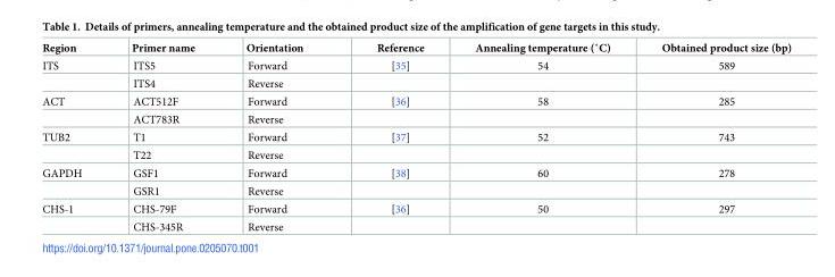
<table><thead><tr><td>Region</td><td>Primer name</td><td>Orientation</td><td>Reference</td><td>Annealing temperature (˚C)</td><td>Obtained product size (bp)</td></tr></thead><tbody><tr><td rowspan="2">ITS</td><td>ITS5</td><td>Forward</td><td>[35]</td><td>54</td><td>589</td></tr><tr><td>ITS4</td><td>Reverse</td><td></td><td></td><td></td></tr><tr><td rowspan="2">ACT</td><td>ACT512F</td><td>Forward</td><td>[36]</td><td>58</td><td>285</td></tr><tr><td>ACT783R</td><td>Reverse</td><td></td><td></td><td></td></tr><tr><td rowspan="2">TUB2</td><td>T1</td><td>Forward</td><td>[37]</td><td>52</td><td>743</td></tr><tr><td>T22</td><td>Reverse</td><td></td><td></td><td></td></tr><tr><td rowspan="2">GAPDH</td><td>GSF1</td><td>Forward</td><td>[38]</td><td>60</td><td>278</td></tr><tr><td>GSR1</td><td>Reverse</td><td></td><td></td><td></td></tr><tr><td rowspan="2">CHS-1</td><td>CHS-79F</td><td>Forward</td><td>[36]</td><td>50</td><td>297</td></tr><tr><td>CHS-345R</td><td>Reverse</td><td></td><td></td><td></td></tr></tbody></table>